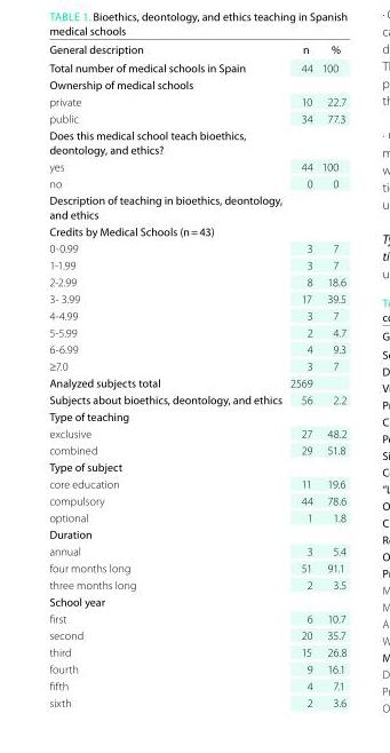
<table><thead><tr><td>General description</td><td>n</td><td>%</td></tr></thead><tbody><tr><td>Total number of medical schools in Spain</td><td>44</td><td>100</td></tr><tr><td colspan="3">ownership of medical schools</td></tr><tr><td>private</td><td>10</td><td>22.7</td></tr><tr><td>public</td><td>34</td><td>77.3</td></tr><tr><td colspan="3">does this medical school teach bioethics, deontology, and ethics?</td></tr><tr><td>yes</td><td>44</td><td>100</td></tr><tr><td>no</td><td>0</td><td>0</td></tr><tr><td colspan="3">description of teaching in bioethics, deontology, and ethics</td></tr><tr><td colspan="3">Credits by Medical Schools (n = 43)</td></tr><tr><td>0-0.99</td><td>3</td><td>7</td></tr><tr><td>1-1.99</td><td>3</td><td>7</td></tr><tr><td>2-2.99</td><td>8</td><td>18.6</td></tr><tr><td>3- 3.99</td><td>17</td><td>39.5</td></tr><tr><td>4-4.99</td><td>3</td><td>7</td></tr><tr><td>5-5.99</td><td>2</td><td>4.7</td></tr><tr><td>6-6.99</td><td>4</td><td>9.3</td></tr><tr><td>≥7.0</td><td>3</td><td>7</td></tr><tr><td>Analyzed subjects total</td><td>2569</td><td></td></tr><tr><td>Subjects about bioethics, deontology, and ethics</td><td>56</td><td>2.2</td></tr><tr><td colspan="3">Type of teaching</td></tr><tr><td>exclusive</td><td>27</td><td>48.2</td></tr><tr><td>combined</td><td>29</td><td>51.8</td></tr><tr><td colspan="3">Type of subject</td></tr><tr><td>core education</td><td>11</td><td>19.6</td></tr><tr><td>compulsory</td><td>44</td><td>78.6</td></tr><tr><td>optional</td><td>1</td><td>1.8</td></tr><tr><td colspan="3">duration</td></tr><tr><td>annual</td><td>3</td><td>5.4</td></tr><tr><td>four months long</td><td>51</td><td>91.1</td></tr><tr><td>three months long</td><td>2</td><td>3.5</td></tr><tr><td colspan="3">School year</td></tr><tr><td>first</td><td>6</td><td>10.7</td></tr><tr><td>second</td><td>20</td><td>35.7</td></tr><tr><td>third</td><td>15</td><td>26.8</td></tr><tr><td>fourth</td><td>9</td><td>16.1</td></tr><tr><td>fifth</td><td>4</td><td>7.1</td></tr><tr><td>sixth</td><td>2</td><td>3.6</td></tr></tbody></table>